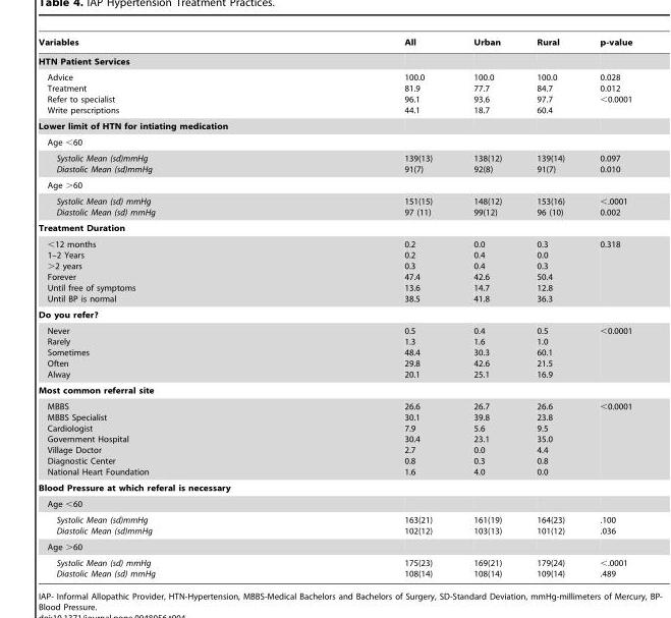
<table><thead><tr><td>Variables</td><td>All</td><td>Urban</td><td>Rural</td><td>p-value</td></tr></thead><tbody><tr><td colspan="5">HTN Patient Services</td></tr><tr><td>Advice Treatment Refer to specialist Write perscriptions</td><td>100.0 81.9 96.1 44.1</td><td>100.0 77.7 93.6 18.7</td><td>100.0 84.7 97.7 60.4</td><td>0.028 0.012 &lt;0.0001</td></tr><tr><td colspan="5">Lower limit of HTN for intiating medication</td></tr><tr><td colspan="5">Age &lt;60</td></tr><tr><td>Systolic Mean (sd)mmHg Diastolic Mean (sd)mmHg</td><td>139(13) 91(7)</td><td>138(12) 92(8)</td><td>139(14) 91(7)</td><td>0.097 0.010</td></tr><tr><td colspan="5">Age &gt;60</td></tr><tr><td>Systolic Mean (sd) mmHg Diastolic Mean (sd) mmHg</td><td>151(15) 97 (11)</td><td>148(12) 99(12)</td><td>153(16) 96 (10)</td><td>&lt;.0001 0.002</td></tr><tr><td colspan="5">Treatment Duration</td></tr><tr><td>&lt;12 months 1–2 Years &gt;2 years Forever Until free of symptoms Until BP is normal</td><td>0.2 0.2 0.3 47.4 13.6 38.5</td><td>0.0 0.4 0.4 42.6 14.7 41.8</td><td>0.3 0.0 0.3 50.4 12.8 36.3</td><td>0.318</td></tr><tr><td colspan="5">Do you refer?</td></tr><tr><td>Never Rarely Sometimes Often Alway</td><td>0.5 1.3 48.4 29.8 20.1</td><td>0.4 1.6 30.3 42.6 25.1</td><td>0.5 1.0 60.1 21.5 16.9</td><td>&lt;0.0001</td></tr><tr><td colspan="5">Most common referral site</td></tr><tr><td>MBBS MBBS Specialist Cardiologist Government Hospital Village Doctor Diagnostic Center National Heart Foundation</td><td>26.6 30.1 7.9 30.4 2.7 0.8 1.6</td><td>26.7 39.8 5.6 23.1 0.0 0.3 4.0</td><td>26.6 23.8 9.5 35.0 4.4 0.8 0.0</td><td>&lt;0.0001</td></tr><tr><td colspan="5">Blood Pressure at which referal is necessary</td></tr><tr><td colspan="5">Age &lt;60</td></tr><tr><td>Systolic Mean (sd)mmHg Diastolic Mean (sd)mmHg</td><td>163(21) 102(12)</td><td>161(19) 103(13)</td><td>164(23) 101(12)</td><td>.100 .036</td></tr><tr><td colspan="5">Age &gt;60</td></tr><tr><td>Systolic Mean (sd) mmHg Diastolic Mean (sd) mmHg</td><td>175(23) 108(14)</td><td>169(21) 108(14)</td><td>179(24) 109(14)</td><td>&lt;.0001 .489</td></tr></tbody></table>